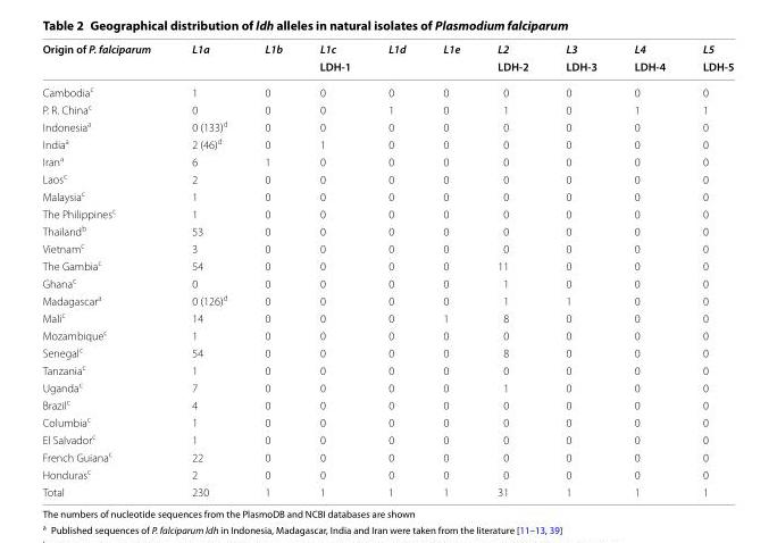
<table><thead><tr><td rowspan="2">Origin of P. falciparum</td><td rowspan="2">L1a</td><td rowspan="2">L1b</td><td rowspan="2">L1c LDH-1</td><td rowspan="2">L1d</td><td rowspan="2">L1e</td><td rowspan="2">L2 LDH-2</td><td rowspan="2">L3 LDH-3</td><td rowspan="2">L4 LDH-4</td><td rowspan="2">L5 LDH-5</td></tr><tr></tr></thead><tbody><tr><td>Cambodia<sup>c</sup></td><td>1</td><td>0</td><td>0</td><td>0</td><td>0</td><td>0</td><td>0</td><td>0</td><td>0</td></tr><tr><td>P. R. China<sup>c</sup></td><td>0</td><td>0</td><td>0</td><td>1</td><td>0</td><td>1</td><td>0</td><td>1</td><td>1</td></tr><tr><td>Indonesia<sup>a</sup></td><td>0 (133)<sup>d</sup></td><td>0</td><td>0</td><td>0</td><td>0</td><td>0</td><td>0</td><td>0</td><td>0</td></tr><tr><td>India<sup>a</sup></td><td>2 (46)<sup>d</sup></td><td>0</td><td>1</td><td>0</td><td>0</td><td>0</td><td>0</td><td>0</td><td>0</td></tr><tr><td>Iran<sup>a</sup></td><td>6</td><td>1</td><td>0</td><td>0</td><td>0</td><td>0</td><td>0</td><td>0</td><td>0</td></tr><tr><td>Laos<sup>c</sup></td><td>2</td><td>0</td><td>0</td><td>0</td><td>0</td><td>0</td><td>0</td><td>0</td><td>0</td></tr><tr><td>Malaysia<sup>c</sup></td><td>1</td><td>0</td><td>0</td><td>0</td><td>0</td><td>0</td><td>0</td><td>0</td><td>0</td></tr><tr><td>The Philippines<sup>c</sup></td><td>1</td><td>0</td><td>0</td><td>0</td><td>0</td><td>0</td><td>0</td><td>0</td><td>0</td></tr><tr><td>Thailand<sup>b</sup></td><td>53</td><td>0</td><td>0</td><td>0</td><td>0</td><td>0</td><td>0</td><td>0</td><td>0</td></tr><tr><td>Vietnam<sup>c</sup></td><td>3</td><td>0</td><td>0</td><td>0</td><td>0</td><td>0</td><td>0</td><td>0</td><td>0</td></tr><tr><td>The Gambia<sup>c</sup></td><td>54</td><td>0</td><td>0</td><td>0</td><td>0</td><td>11</td><td>0</td><td>0</td><td>0</td></tr><tr><td>Ghana<sup>c</sup></td><td>0</td><td>0</td><td>0</td><td>0</td><td>0</td><td>1</td><td>0</td><td>0</td><td>0</td></tr><tr><td>Madagascar<sup>a</sup></td><td>0 (126)<sup>d</sup></td><td>0</td><td>0</td><td>0</td><td>0</td><td>1</td><td>1</td><td>0</td><td>0</td></tr><tr><td>Mali<sup>c</sup></td><td>14</td><td>0</td><td>0</td><td>0</td><td>1</td><td>8</td><td>0</td><td>0</td><td>0</td></tr><tr><td>Mozambique<sup>c</sup></td><td>1</td><td>0</td><td>0</td><td>0</td><td>0</td><td>0</td><td>0</td><td>0</td><td>0</td></tr><tr><td>Senegal<sup>c</sup></td><td>54</td><td>0</td><td>0</td><td>0</td><td>0</td><td>8</td><td>0</td><td>0</td><td>0</td></tr><tr><td>Tanzania<sup>c</sup></td><td>1</td><td>0</td><td>0</td><td>0</td><td>0</td><td>0</td><td>0</td><td>0</td><td>0</td></tr><tr><td>Uganda<sup>c</sup></td><td>7</td><td>0</td><td>0</td><td>0</td><td>0</td><td>1</td><td>0</td><td>0</td><td>0</td></tr><tr><td>Brazil<sup>c</sup></td><td>4</td><td>0</td><td>0</td><td>0</td><td>0</td><td>0</td><td>0</td><td>0</td><td>0</td></tr><tr><td>Columbia<sup>c</sup></td><td>1</td><td>0</td><td>0</td><td>0</td><td>0</td><td>0</td><td>0</td><td>0</td><td>0</td></tr><tr><td>El Salvador<sup>c</sup></td><td>1</td><td>0</td><td>0</td><td>0</td><td>0</td><td>0</td><td>0</td><td>0</td><td>0</td></tr><tr><td>French Guiana<sup>c</sup></td><td>22</td><td>0</td><td>0</td><td>0</td><td>0</td><td>0</td><td>0</td><td>0</td><td>0</td></tr><tr><td>Honduras<sup>c</sup></td><td>2</td><td>0</td><td>0</td><td>0</td><td>0</td><td>0</td><td>0</td><td>0</td><td>0</td></tr><tr><td>Total</td><td>230</td><td>1</td><td>1</td><td>1</td><td>1</td><td>31</td><td>1</td><td>1</td><td>1</td></tr></tbody></table>